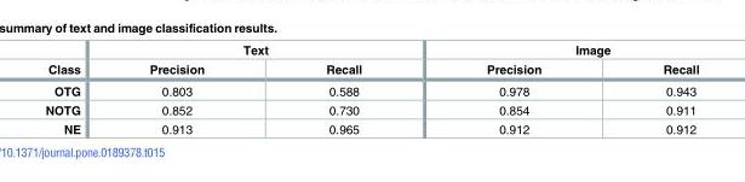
<table><thead><tr><td rowspan="2">Class</td><td colspan="2">Text</td><td colspan="2">Image</td></tr><tr><td>Precision</td><td>Recall</td><td>Precision</td><td>Recall</td></tr></thead><tbody><tr><td>OTG</td><td>0.803</td><td>0.588</td><td>0.978</td><td>0.943</td></tr><tr><td>NOTG</td><td>0.852</td><td>0.730</td><td>0.854</td><td>0.911</td></tr><tr><td>NE</td><td>0.913</td><td>0.965</td><td>0.912</td><td>0.912</td></tr></tbody></table>